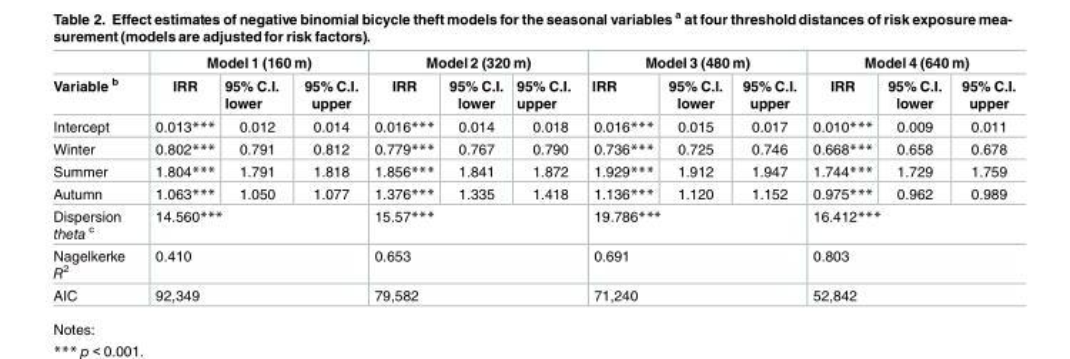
<table><thead><tr><td rowspan="2">Variable <sup>b</sup></td><td colspan="3">Model 1 (160 m)</td><td colspan="3">Model 2 (320 m)</td><td colspan="3">Model 3 (480 m)</td><td colspan="3">Model 4 (640 m)</td></tr><tr><td>IRR</td><td>95% C.I. lower</td><td>95% C.I. upper</td><td>IRR</td><td>95% C.I. lower</td><td>95% C.I. upper</td><td>IRR</td><td>95% C.I. lower</td><td>95% C.I. upper</td><td>IRR</td><td>95% C.I. lower</td><td>95% C.I. upper</td></tr></thead><tbody><tr><td>Intercept</td><td>0.013***</td><td>0.012</td><td>0.014</td><td>0.016***</td><td>0.014</td><td>0.018</td><td>0.016***</td><td>0.015</td><td>0.017</td><td>0.010***</td><td>0.009</td><td>0.011</td></tr><tr><td>Winter</td><td>0.802***</td><td>0.791</td><td>0.812</td><td>0.779***</td><td>0.767</td><td>0.790</td><td>0.736***</td><td>0.725</td><td>0.746</td><td>0.668***</td><td>0.658</td><td>0.678</td></tr><tr><td>Summer</td><td>1.804***</td><td>1.791</td><td>1.818</td><td>1.856***</td><td>1.841</td><td>1.872</td><td>1.929***</td><td>1.912</td><td>1.947</td><td>1.744***</td><td>1.729</td><td>1.759</td></tr><tr><td>Autumn</td><td>1.063***</td><td>1.050</td><td>1.077</td><td>1.376***</td><td>1.335</td><td>1.418</td><td>1.136***</td><td>1.120</td><td>1.152</td><td>0.975***</td><td>0.962</td><td>0.989</td></tr><tr><td>Dispersion theta <sup>c</sup></td><td colspan="3">14.560***</td><td colspan="3">15.57***</td><td colspan="3">19.786***</td><td colspan="3">16.412***</td></tr><tr><td>Nagelkerke R<sup>2</sup></td><td colspan="3">0.410</td><td colspan="3">0.653</td><td colspan="3">0.691</td><td colspan="3">0.803</td></tr><tr><td>AIC</td><td colspan="3">92,349</td><td colspan="3">79,582</td><td colspan="3">71,240</td><td colspan="3">52,842</td></tr></tbody></table>